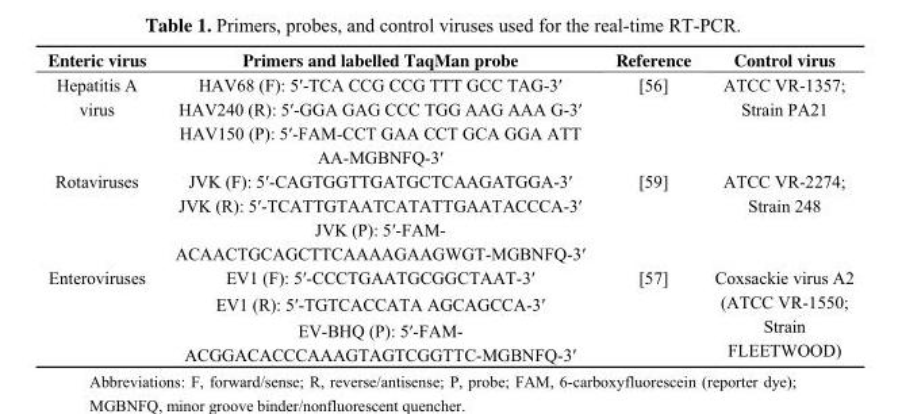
<table><thead><tr><td>Enteric virus</td><td>Primers and labelled TaqMan probe</td><td>Reference</td><td>Control virus</td></tr></thead><tbody><tr><td rowspan="3">Hepatitis A virus</td><td>HAV68 (F): 5′-TCA CCG CCG TTT GCC TAG-3′</td><td rowspan="3">[56]</td><td rowspan="3">ATCC VR-1357; Strain PA21</td></tr><tr><td>HAV240 (R): 5′-GGA GAG CCC TGG AAG AAA G-3′</td></tr><tr><td>HAV150 (P): 5′-FAM-CCT GAA CCT GCA GGA ATT AA-MGBNFQ-3′</td></tr><tr><td rowspan="3">Rotaviruses</td><td>JVK (F): 5′-CAGTGGTTGATGCTCAAGATGGA-3′</td><td rowspan="3">[59]</td><td rowspan="3">ATCC VR-2274; Strain 248</td></tr><tr><td>JVK (R): 5′-TCATTGTAATCATATTGAATACCCA-3′</td></tr><tr><td>JVK (P): 5′-FAM- ACAACTGCAGCTTCAAAAGAAGWGT-MGBNFQ-3′</td></tr><tr><td rowspan="3">Enteroviruses</td><td>EV1 (F): 5′-CCCTGAATGCGGCTAAT-3′</td><td rowspan="3">[57]</td><td rowspan="3">Coxsackie virus A2 (ATCC VR-1550; Strain FLEETWOOD)</td></tr><tr><td>EV1 (R): 5′-TGTCACCATA AGCAGCCA-3′</td></tr><tr><td>EV-BHQ (P): 5′-FAM- ACGGACACCCAAAGTAGTCGGTTC-MGBNFQ-3′</td></tr></tbody></table>